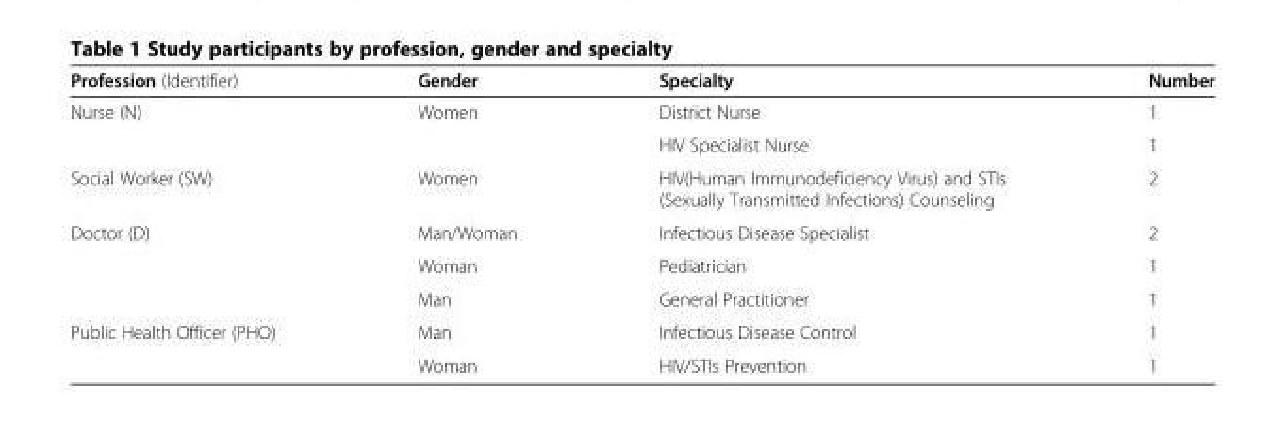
<table><thead><tr><td>Profession (Identifier)</td><td>Gender</td><td>Specialty</td><td>Number</td></tr></thead><tbody><tr><td rowspan="2">Nurse (N)</td><td>Women</td><td>District Nurse</td><td>1</td></tr><tr><td></td><td>HIV Specialist Nurse</td><td>1</td></tr><tr><td>Social Worker (SW)</td><td>Women</td><td>HIV(Human Immunodeficiency Virus) and STIs (Sexually Transmitted Infections) Counseling</td><td>2</td></tr><tr><td rowspan="3">Doctor (D)</td><td>Man/Woman</td><td>Infectious Disease Specialist</td><td>2</td></tr><tr><td>Woman</td><td>Pediatrician</td><td>1</td></tr><tr><td>Man</td><td>General Practitioner</td><td>1</td></tr><tr><td rowspan="2">Public Health Officer (PHO)</td><td>Man</td><td>Infectious Disease Control</td><td>1</td></tr><tr><td>Woman</td><td>HIV/STIs Prevention</td><td>1</td></tr></tbody></table>